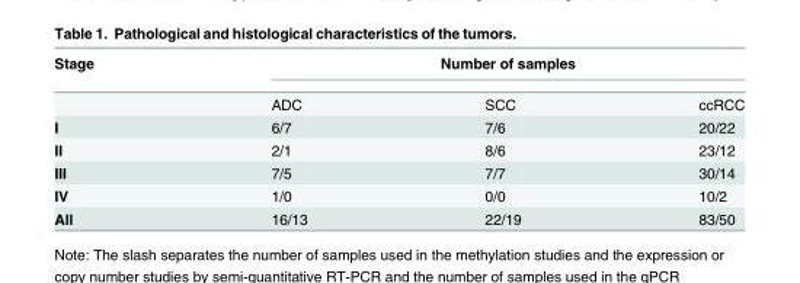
<table><thead><tr><td rowspan="2">Stage</td><td colspan="3">Number of samples</td></tr><tr><td>ADC</td><td>SCC</td><td>ccRCC</td></tr></thead><tbody><tr><td>I</td><td>6/7</td><td>7/6</td><td>20/22</td></tr><tr><td>II</td><td>2/1</td><td>8/6</td><td>23/12</td></tr><tr><td>III</td><td>7/5</td><td>7/7</td><td>30/14</td></tr><tr><td>IV</td><td>1/0</td><td>0/0</td><td>10/2</td></tr><tr><td>All</td><td>16/13</td><td>22/19</td><td>83/50</td></tr></tbody></table>